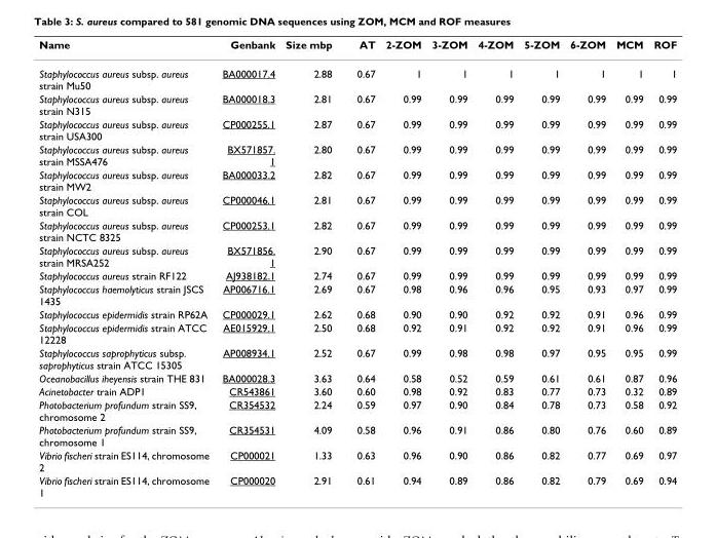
<table><thead><tr><td>Name</td><td>Genbank</td><td>Size mbp</td><td>AT</td><td>2-ZOM</td><td>3-ZOM</td><td>4-ZOM</td><td>5-ZOM</td><td>6-ZOM</td><td>MCM</td><td>ROF</td></tr></thead><tbody><tr><td>Staphylococcus aureus subsp. aureus strain Mu50</td><td>BA000017.4</td><td>2.88</td><td>0.67</td><td>1</td><td>1</td><td>1</td><td>1</td><td>1</td><td>1</td><td>1</td></tr><tr><td>Staphylococcus aureus subsp. aureus strain N315</td><td>BA000018.3</td><td>2.81</td><td>0.67</td><td>0.99</td><td>0.99</td><td>0.99</td><td>0.99</td><td>0.99</td><td>0.99</td><td>0.99</td></tr><tr><td>Staphylococcus aureus subsp. aureus strain USA300</td><td>CP000255.1</td><td>2.87</td><td>0.67</td><td>0.99</td><td>0.99</td><td>0.99</td><td>0.99</td><td>0.99</td><td>0.99</td><td>0.99</td></tr><tr><td>Staphylococcus aureus subsp. aureus strain MSSA476</td><td>BX571857. 1</td><td>2.80</td><td>0.67</td><td>0.99</td><td>0.99</td><td>0.99</td><td>0.99</td><td>0.99</td><td>0.99</td><td>0.99</td></tr><tr><td>Staphylococcus aureus subsp. aureus strain MW2</td><td>BA000033.2</td><td>2.82</td><td>0.67</td><td>0.99</td><td>0.99</td><td>0.99</td><td>0.99</td><td>0.99</td><td>0.99</td><td>0.99</td></tr><tr><td>Staphylococcus aureus subsp. aureus strain COL</td><td>CP000046.1</td><td>2.81</td><td>0.67</td><td>0.99</td><td>0.99</td><td>0.99</td><td>0.99</td><td>0.99</td><td>0.99</td><td>0.99</td></tr><tr><td>Staphylococcus aureus subsp. aureus strain NCTC 8325</td><td>CP000253.1</td><td>2.82</td><td>0.67</td><td>0.99</td><td>0.99</td><td>0.99</td><td>0.99</td><td>0.99</td><td>0.99</td><td>0.99</td></tr><tr><td>Staphylococcus aureus subsp. aureus strain MRSA252</td><td>BX571856. 1</td><td>2.90</td><td>0.67</td><td>0.99</td><td>0.99</td><td>0.99</td><td>0.99</td><td>0.99</td><td>0.99</td><td>0.99</td></tr><tr><td>Staphylococcus aureus strain RF122</td><td>AJ938182.1</td><td>2.74</td><td>0.67</td><td>0.99</td><td>0.99</td><td>0.99</td><td>0.99</td><td>0.99</td><td>0.99</td><td>0.99</td></tr><tr><td>Staphylococcus haemolyticus strain JSCS 1435</td><td>AP006716.1</td><td>2.69</td><td>0.67</td><td>0.98</td><td>0.96</td><td>0.96</td><td>0.95</td><td>0.93</td><td>0.97</td><td>0.99</td></tr><tr><td>Staphylococcus epidermidis strain RP62A</td><td>CP000029.1</td><td>2.62</td><td>0.68</td><td>0.90</td><td>0.90</td><td>0.92</td><td>0.92</td><td>0.91</td><td>0.96</td><td>0.99</td></tr><tr><td>Staphylococcus epidermidis strain ATCC 12228</td><td>AE015929.1</td><td>2.50</td><td>0.68</td><td>0.92</td><td>0.91</td><td>0.92</td><td>0.92</td><td>0.91</td><td>0.96</td><td>0.99</td></tr><tr><td>Staphylococcus saprophyticus subsp. saprophyticus strain ATCC 15305</td><td>AP008934.1</td><td>2.52</td><td>0.67</td><td>0.99</td><td>0.98</td><td>0.98</td><td>0.97</td><td>0.95</td><td>0.95</td><td>0.99</td></tr><tr><td>Oceanobacillus iheyensis strain THE 831</td><td>BA000028.3</td><td>3.63</td><td>0.64</td><td>0.58</td><td>0.52</td><td>0.59</td><td>0.61</td><td>0.61</td><td>0.87</td><td>0.96</td></tr><tr><td>Acinetobacter train ADP1</td><td>CR543861</td><td>3.60</td><td>0.60</td><td>0.98</td><td>0.92</td><td>0.83</td><td>0.77</td><td>0.73</td><td>0.32</td><td>0.89</td></tr><tr><td>Photobacterium profundum strain SS9, chromosome 2</td><td>CR354532</td><td>2.24</td><td>0.59</td><td>0.97</td><td>0.90</td><td>0.84</td><td>0.78</td><td>0.73</td><td>0.58</td><td>0.92</td></tr><tr><td>Photobacterium profundum strain SS9, chromosome 1</td><td>CR354531</td><td>4.09</td><td>0.58</td><td>0.96</td><td>0.91</td><td>0.86</td><td>0.80</td><td>0.76</td><td>0.60</td><td>0.89</td></tr><tr><td>Vibrio fischeri strain ES114, chromosome 2</td><td>CP000021</td><td>1.33</td><td>0.63</td><td>0.96</td><td>0.90</td><td>0.86</td><td>0.82</td><td>0.77</td><td>0.69</td><td>0.97</td></tr><tr><td>Vibrio fischeri strain ES114, chromosome 1</td><td>CP000020</td><td>2.91</td><td>0.61</td><td>0.94</td><td>0.89</td><td>0.86</td><td>0.82</td><td>0.79</td><td>0.69</td><td>0.94</td></tr></tbody></table>